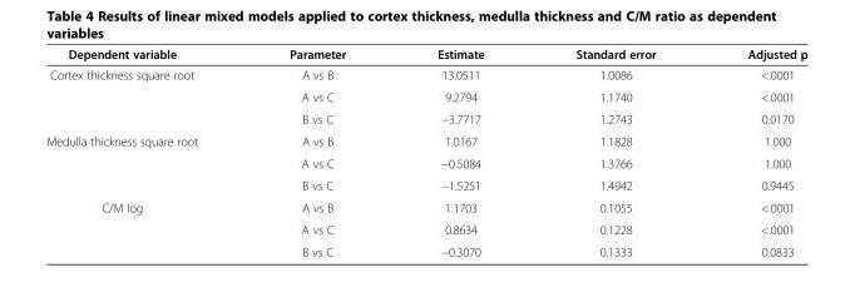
<table><thead><tr><td>Dependent variable</td><td>Parameter</td><td>Estimate</td><td>Standard error</td><td>Adjusted p</td></tr></thead><tbody><tr><td rowspan="3">Cortex thickness square root</td><td>A vs B</td><td>13.0511</td><td>1.0086</td><td>&lt;.0001</td></tr><tr><td>A vs C</td><td>9.2794</td><td>1.1740</td><td>&lt;.0001</td></tr><tr><td>B vs C</td><td>−3.7717</td><td>1.2743</td><td>0.0170</td></tr><tr><td rowspan="3">Medulla thickness square root</td><td>A vs B</td><td>1.0167</td><td>1.1828</td><td>1.000</td></tr><tr><td>A vs C</td><td>−0.5084</td><td>1.3766</td><td>1.000</td></tr><tr><td>B vs C</td><td>−1.5251</td><td>1.4942</td><td>0.9445</td></tr><tr><td rowspan="3">C/M log</td><td>A vs B</td><td>1.1703</td><td>0.1055</td><td>&lt;.0001</td></tr><tr><td>A vs C</td><td>0.8634</td><td>0.1228</td><td>&lt;.0001</td></tr><tr><td>B vs C</td><td>−0.3070</td><td>0.1333</td><td>0.0833</td></tr></tbody></table>